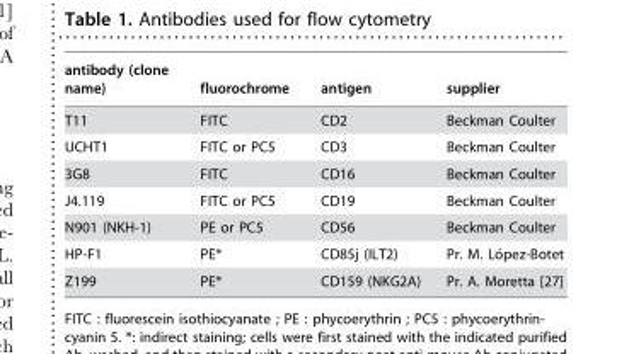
<table><thead><tr><td>antibody (clone name)</td><td>fluorochrome</td><td>antigen</td><td>supplier</td></tr></thead><tbody><tr><td>T11</td><td>FITC</td><td>CD2</td><td>Beckman Coulter</td></tr><tr><td>UCHT1</td><td>FITC or PC5</td><td>CD3</td><td>Beckman Coulter</td></tr><tr><td>3G8</td><td>FITC</td><td>CD16</td><td>Beckman Coulter</td></tr><tr><td>J4.119</td><td>FITC or PC5</td><td>CD19</td><td>Beckman Coulter</td></tr><tr><td>N901 (NKH-1)</td><td>PE or PC5</td><td>CD56</td><td>Beckman Coulter</td></tr><tr><td>HP-F1</td><td>PE*</td><td>CD85j (ILT2)</td><td>Pr. M. Lo´pez-Botet</td></tr><tr><td>Z199</td><td>PE*</td><td>CD159 (NKG2A)</td><td>Pr. A. Moretta [27]</td></tr></tbody></table>